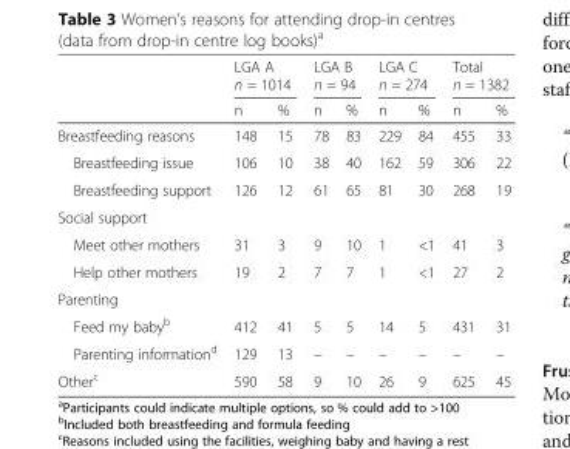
<table><thead><tr><td rowspan="2"></td><td colspan="2">LGA A n = 1014</td><td colspan="2">LGA B n = 94</td><td colspan="2">LGA C n = 274</td><td colspan="2">Total n = 1382</td></tr><tr><td>n</td><td>%</td><td>n</td><td>%</td><td>n</td><td>%</td><td>n</td><td>%</td></tr></thead><tbody><tr><td>Breastfeeding reasons</td><td>148</td><td>15</td><td>78</td><td>83</td><td>229</td><td>84</td><td>455</td><td>33</td></tr><tr><td>Breastfeeding issue</td><td>106</td><td>10</td><td>38</td><td>40</td><td>162</td><td>59</td><td>306</td><td>22</td></tr><tr><td>Breastfeeding support</td><td>126</td><td>12</td><td>61</td><td>65</td><td>81</td><td>30</td><td>268</td><td>19</td></tr><tr><td colspan="9">Social support</td></tr><tr><td>Meet other mothers</td><td>31</td><td>3</td><td>9</td><td>10</td><td>1</td><td>&lt;1</td><td>41</td><td>3</td></tr><tr><td>Help other mothers</td><td>19</td><td>2</td><td>7</td><td>7</td><td>1</td><td>&lt;1</td><td>27</td><td>2</td></tr><tr><td colspan="9">Parenting</td></tr><tr><td>Feed my baby<sup>b</sup></td><td>412</td><td>41</td><td>5</td><td>5</td><td>14</td><td>5</td><td>431</td><td>31</td></tr><tr><td>Parenting information<sup>d</sup></td><td>129</td><td>13</td><td>–</td><td>–</td><td>–</td><td>–</td><td>–</td><td>–</td></tr><tr><td>Other<sup>c</sup></td><td>590</td><td>58</td><td>9</td><td>10</td><td>26</td><td>9</td><td>625</td><td>45</td></tr></tbody></table>